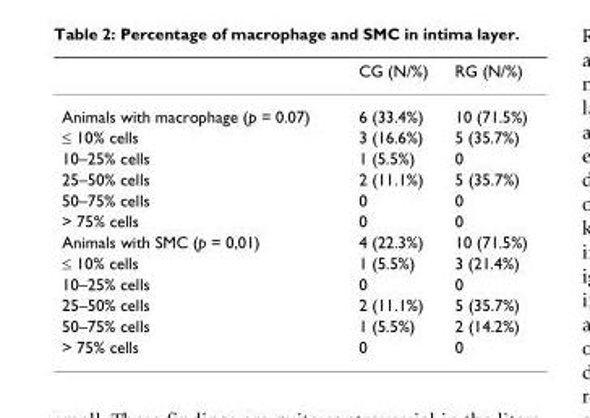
<table><thead><tr><td></td><td>CG (N/%)</td><td>RG (N/%)</td></tr></thead><tbody><tr><td>Animals with macrophage (p = 0.07)</td><td>6 (33.4%)</td><td>10 (71.5%)</td></tr><tr><td>≤ 10% cells</td><td>3 (16.6%)</td><td>5 (35.7%)</td></tr><tr><td>10–25% cells</td><td>1 (5.5%)</td><td>0</td></tr><tr><td>25–50% cells</td><td>2 (11.1%)</td><td>5 (35.7%)</td></tr><tr><td>50–75% cells</td><td>0</td><td>0</td></tr><tr><td>&gt; 75% cells</td><td>0</td><td>0</td></tr><tr><td>Animals with SMC (p = 0,01)</td><td>4 (22.3%)</td><td>10 (71.5%)</td></tr><tr><td>≤ 10% cells</td><td>1 (5.5%)</td><td>3 (21.4%)</td></tr><tr><td>10–25% cells</td><td>0</td><td>0</td></tr><tr><td>25–50% cells</td><td>2 (11.1%)</td><td>5 (35.7%)</td></tr><tr><td>50–75% cells</td><td>1 (5.5%)</td><td>2 (14.2%)</td></tr><tr><td>&gt; 75% cells</td><td>0</td><td>0</td></tr></tbody></table>